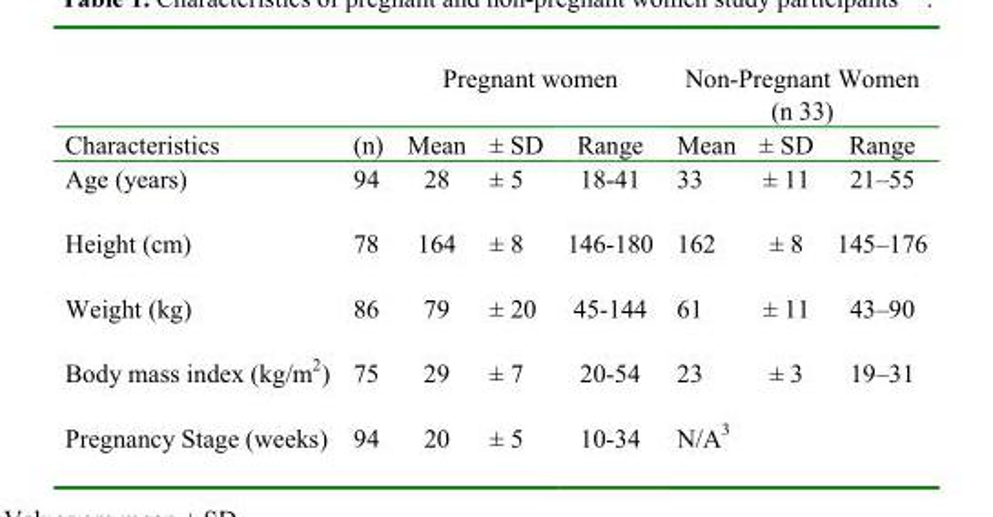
<table><thead><tr><td rowspan="2">Characteristics</td><td rowspan="2">(n)</td><td colspan="3">Pregnant women</td><td colspan="3">Non-Pregnant Women (n 33)</td></tr><tr><td>Mean</td><td>± SD</td><td>Range</td><td>Mean</td><td>± SD</td><td>Range</td></tr></thead><tbody><tr><td>Age (years)</td><td>94</td><td>28</td><td>± 5</td><td>18-41</td><td>33</td><td>± 11</td><td>21–55</td></tr><tr><td>Height (cm)</td><td>78</td><td>164</td><td>± 8</td><td>146-180</td><td>162</td><td>± 8</td><td>145–176</td></tr><tr><td>Weight (kg)</td><td>86</td><td>79</td><td>± 20</td><td>45-144</td><td>61</td><td>± 11</td><td>43–90</td></tr><tr><td>Body mass index (kg/m<sup>2</sup>)</td><td>75</td><td>29</td><td>± 7</td><td>20-54</td><td>23</td><td>± 3</td><td>19–31</td></tr><tr><td>Pregnancy Stage (weeks)</td><td>94</td><td>20</td><td>± 5</td><td>10-34</td><td>N/A<sup>3</sup></td><td></td><td></td></tr></tbody></table>